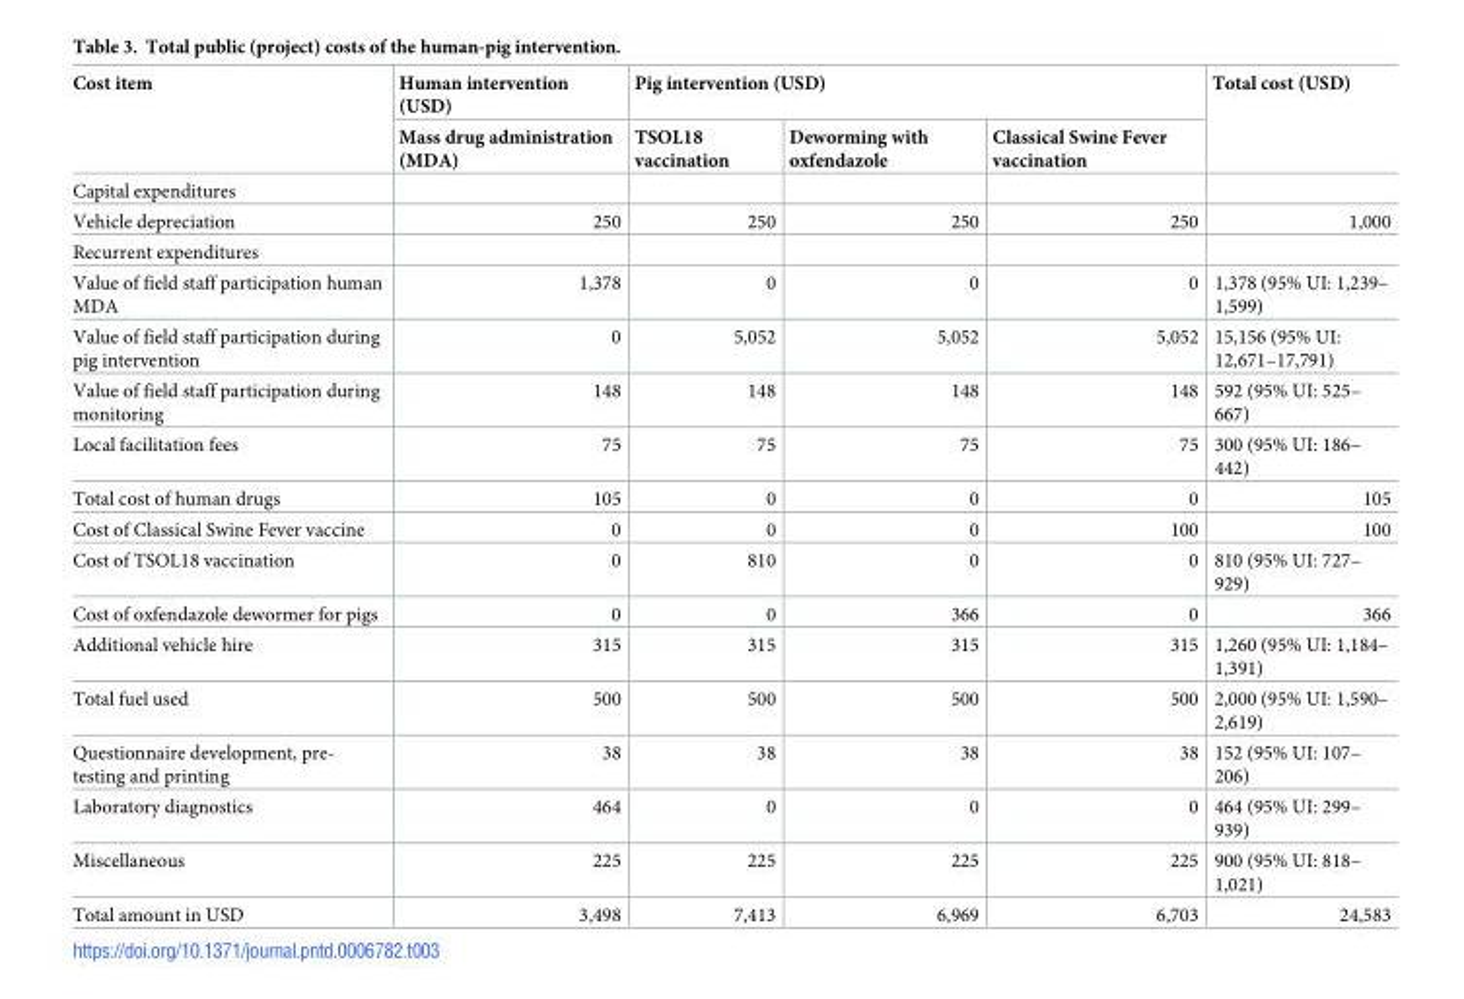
<table><thead><tr><td rowspan="2">Cost item</td><td rowspan="2">Human intervention (USD) Mass drug administration (MDA)</td><td colspan="3">Pig intervention (USD)</td><td rowspan="2">Total cost (USD)</td></tr><tr><td>TSOL18 vaccination</td><td>Deworming with oxfendazole</td><td>Classical Swine Fever vaccination</td></tr></thead><tbody><tr><td colspan="6">Capital expenditures</td></tr><tr><td>Vehicle depreciation</td><td>250</td><td>250</td><td>250</td><td>250</td><td>1,000</td></tr><tr><td colspan="6">Recurrent expenditures</td></tr><tr><td>Value of field staff participation human MDA</td><td>1,378</td><td>0</td><td>0</td><td>0</td><td>1,378 (95% UI: 1,239– 1,599)</td></tr><tr><td>Value of field staff participation during pig intervention</td><td>0</td><td>5,052</td><td>5,052</td><td>5,052</td><td>15,156 (95% UI: 12,671–17,791)</td></tr><tr><td>Value of field staff participation during monitoring</td><td>148</td><td>148</td><td>148</td><td>148</td><td>592 (95% UI: 525– 667)</td></tr><tr><td>Local facilitation fees</td><td>75</td><td>75</td><td>75</td><td>75</td><td>300 (95% UI: 186– 442)</td></tr><tr><td>Total cost of human drugs</td><td>105</td><td>0</td><td>0</td><td>0</td><td>105</td></tr><tr><td>Cost of Classical Swine Fever vaccine</td><td>0</td><td>0</td><td>0</td><td>100</td><td>100</td></tr><tr><td>Cost of TSOL18 vaccination</td><td>0</td><td>810</td><td>0</td><td>0</td><td>810 (95% UI: 727– 929)</td></tr><tr><td>Cost of oxfendazole dewormer for pigs</td><td>0</td><td>0</td><td>366</td><td>0</td><td>366</td></tr><tr><td>Additional vehicle hire</td><td>315</td><td>315</td><td>315</td><td>315</td><td>1,260 (95% UI: 1,184– 1,391)</td></tr><tr><td>Total fuel used</td><td>500</td><td>500</td><td>500</td><td>500</td><td>2,000 (95% UI: 1,590– 2,619)</td></tr><tr><td>Questionnaire development, pre- testing and printing</td><td>38</td><td>38</td><td>38</td><td>38</td><td>152 (95% UI: 107– 206)</td></tr><tr><td>Laboratory diagnostics</td><td>464</td><td>0</td><td>0</td><td>0</td><td>464 (95% UI: 299– 939)</td></tr><tr><td>Miscellaneous</td><td>225</td><td>225</td><td>225</td><td>225</td><td>900 (95% UI: 818– 1,021)</td></tr><tr><td>Total amount in USD</td><td>3,498</td><td>7,413</td><td>6,969</td><td>6,703</td><td>24,583</td></tr></tbody></table>